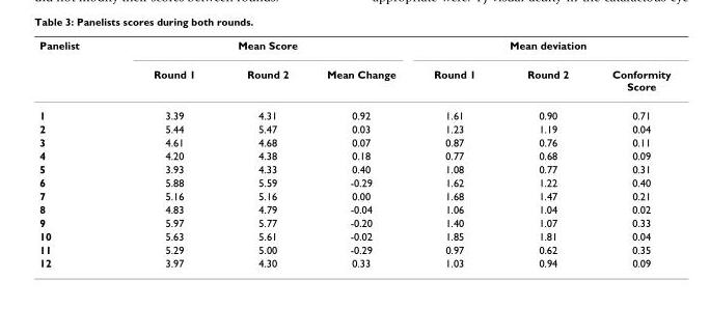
<table><thead><tr><td rowspan="2">Panelist</td><td colspan="3">Mean Score</td><td colspan="3">Mean deviation</td></tr><tr><td>Round 1</td><td>Round 2</td><td>Mean Change</td><td>Round 1</td><td>Round 2</td><td>Conformity Score</td></tr></thead><tbody><tr><td>1</td><td>3.39</td><td>4.31</td><td>0.92</td><td>1.61</td><td>0.90</td><td>0.71</td></tr><tr><td>2</td><td>5.44</td><td>5.47</td><td>0.03</td><td>1.23</td><td>1.19</td><td>0.04</td></tr><tr><td>3</td><td>4.61</td><td>4.68</td><td>0.07</td><td>0.87</td><td>0.76</td><td>0.11</td></tr><tr><td>4</td><td>4.20</td><td>4.38</td><td>0.18</td><td>0.77</td><td>0.68</td><td>0.09</td></tr><tr><td>5</td><td>3.93</td><td>4.33</td><td>0.40</td><td>1.08</td><td>0.77</td><td>0.31</td></tr><tr><td>6</td><td>5.88</td><td>5.59</td><td>-0.29</td><td>1.62</td><td>1.22</td><td>0.40</td></tr><tr><td>7</td><td>5.16</td><td>5.16</td><td>0.00</td><td>1.68</td><td>1.47</td><td>0.21</td></tr><tr><td>8</td><td>4.83</td><td>4.79</td><td>-0.04</td><td>1.06</td><td>1.04</td><td>0.02</td></tr><tr><td>9</td><td>5.97</td><td>5.77</td><td>-0.20</td><td>1.40</td><td>1.07</td><td>0.33</td></tr><tr><td>10</td><td>5.63</td><td>5.61</td><td>-0.02</td><td>1.85</td><td>1.81</td><td>0.04</td></tr><tr><td>11</td><td>5.29</td><td>5.00</td><td>-0.29</td><td>0.97</td><td>0.62</td><td>0.35</td></tr><tr><td>12</td><td>3.97</td><td>4.30</td><td>0.33</td><td>1.03</td><td>0.94</td><td>0.09</td></tr></tbody></table>